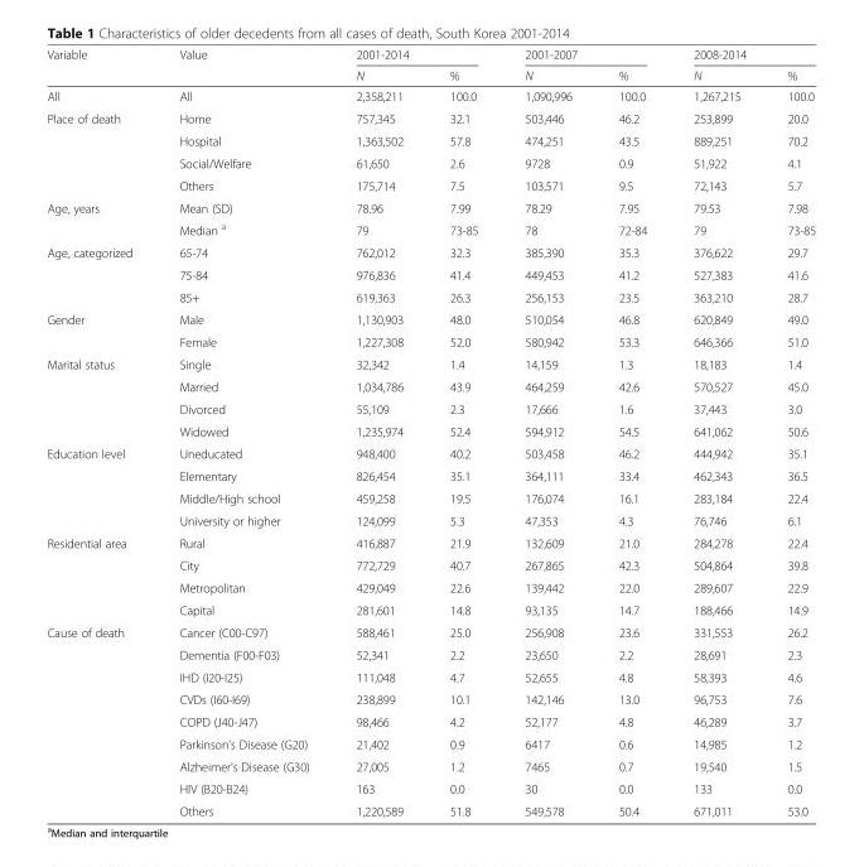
<table><thead><tr><td rowspan="2">Variable</td><td rowspan="2">Value</td><td colspan="2">2001-2014</td><td colspan="2">2001-2007</td><td colspan="2">2008-2014</td></tr><tr><td>N</td><td>%</td><td>N</td><td>%</td><td>N</td><td>%</td></tr></thead><tbody><tr><td>All</td><td>All</td><td>2,358,211</td><td>100.0</td><td>1,090,996</td><td>100.0</td><td>1,267,215</td><td>100.0</td></tr><tr><td rowspan="4">Place of death</td><td>Home</td><td>757,345</td><td>32.1</td><td>503,446</td><td>46.2</td><td>253,899</td><td>20.0</td></tr><tr><td>Hospital</td><td>1,363,502</td><td>57.8</td><td>474,251</td><td>43.5</td><td>889,251</td><td>70.2</td></tr><tr><td>Social/Welfare</td><td>61,650</td><td>2.6</td><td>9728</td><td>0.9</td><td>51,922</td><td>4.1</td></tr><tr><td>Others</td><td>175,714</td><td>7.5</td><td>103,571</td><td>9.5</td><td>72,143</td><td>5.7</td></tr><tr><td rowspan="2">Age, years</td><td>Mean (SD)</td><td>78.96</td><td>7.99</td><td>78.29</td><td>7.95</td><td>79.53</td><td>7.98</td></tr><tr><td>Median <sup>a</sup></td><td>79</td><td>73-85</td><td>78</td><td>72-84</td><td>79</td><td>73-85</td></tr><tr><td rowspan="3">Age, categorized</td><td>65-74</td><td>762,012</td><td>32.3</td><td>385,390</td><td>35.3</td><td>376,622</td><td>29.7</td></tr><tr><td>75-84</td><td>976,836</td><td>41.4</td><td>449,453</td><td>41.2</td><td>527,383</td><td>41.6</td></tr><tr><td>85+</td><td>619,363</td><td>26.3</td><td>256,153</td><td>23.5</td><td>363,210</td><td>28.7</td></tr><tr><td rowspan="2">Gender</td><td>Male</td><td>1,130,903</td><td>48.0</td><td>510,054</td><td>46.8</td><td>620,849</td><td>49.0</td></tr><tr><td>Female</td><td>1,227,308</td><td>52.0</td><td>580,942</td><td>53.3</td><td>646,366</td><td>51.0</td></tr><tr><td rowspan="4">Marital status</td><td>Single</td><td>32,342</td><td>1.4</td><td>14,159</td><td>1.3</td><td>18,183</td><td>1.4</td></tr><tr><td>Married</td><td>1,034,786</td><td>43.9</td><td>464,259</td><td>42.6</td><td>570,527</td><td>45.0</td></tr><tr><td>Divorced</td><td>55,109</td><td>2.3</td><td>17,666</td><td>1.6</td><td>37,443</td><td>3.0</td></tr><tr><td>Widowed</td><td>1,235,974</td><td>52.4</td><td>594,912</td><td>54.5</td><td>641,062</td><td>50.6</td></tr><tr><td rowspan="4">Education level</td><td>Uneducated</td><td>948,400</td><td>40.2</td><td>503,458</td><td>46.2</td><td>444,942</td><td>35.1</td></tr><tr><td>Elementary</td><td>826,454</td><td>35.1</td><td>364,111</td><td>33.4</td><td>462,343</td><td>36.5</td></tr><tr><td>Middle/High school</td><td>459,258</td><td>19.5</td><td>176,074</td><td>16.1</td><td>283,184</td><td>22.4</td></tr><tr><td>University or higher</td><td>124,099</td><td>5.3</td><td>47,353</td><td>4.3</td><td>76,746</td><td>6.1</td></tr><tr><td rowspan="4">Residential area</td><td>Rural</td><td>416,887</td><td>21.9</td><td>132,609</td><td>21.0</td><td>284,278</td><td>22.4</td></tr><tr><td>City</td><td>772,729</td><td>40.7</td><td>267,865</td><td>42.3</td><td>504,864</td><td>39.8</td></tr><tr><td>Metropolitan</td><td>429,049</td><td>22.6</td><td>139,442</td><td>22.0</td><td>289,607</td><td>22.9</td></tr><tr><td>Capital</td><td>281,601</td><td>14.8</td><td>93,135</td><td>14.7</td><td>188,466</td><td>14.9</td></tr><tr><td rowspan="9">Cause of death</td><td>Cancer (C00-C97)</td><td>588,461</td><td>25.0</td><td>256,908</td><td>23.6</td><td>331,553</td><td>26.2</td></tr><tr><td>Dementia (F00-F03)</td><td>52,341</td><td>2.2</td><td>23,650</td><td>2.2</td><td>28,691</td><td>2.3</td></tr><tr><td>IHD (I20-I25)</td><td>111,048</td><td>4.7</td><td>52,655</td><td>4.8</td><td>58,393</td><td>4.6</td></tr><tr><td>CVDs (I60-I69)</td><td>238,899</td><td>10.1</td><td>142,146</td><td>13.0</td><td>96,753</td><td>7.6</td></tr><tr><td>COPD (J40-J47)</td><td>98,466</td><td>4.2</td><td>52,177</td><td>4.8</td><td>46,289</td><td>3.7</td></tr><tr><td>Parkinson’s Disease (G20)</td><td>21,402</td><td>0.9</td><td>6417</td><td>0.6</td><td>14,985</td><td>1.2</td></tr><tr><td>Alzheimer’s Disease (G30)</td><td>27,005</td><td>1.2</td><td>7465</td><td>0.7</td><td>19,540</td><td>1.5</td></tr><tr><td>HIV (B20-B24)</td><td>163</td><td>0.0</td><td>30</td><td>0.0</td><td>133</td><td>0.0</td></tr><tr><td>Others</td><td>1,220,589</td><td>51.8</td><td>549,578</td><td>50.4</td><td>671,011</td><td>53.0</td></tr></tbody></table>